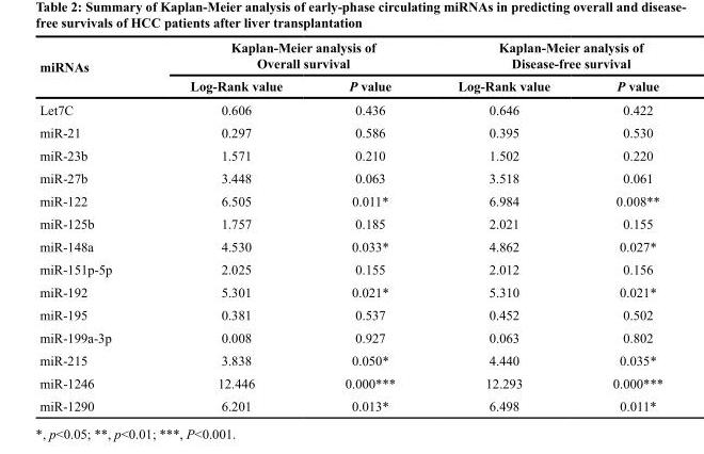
<table><thead><tr><td rowspan="2">miRNAs</td><td colspan="2">Kaplan-Meier analysis of Overall survival</td><td colspan="2">Kaplan-Meier analysis of Disease-free survival</td></tr><tr><td>Log-Rank value</td><td>P value</td><td>Log-Rank value</td><td>P value</td></tr></thead><tbody><tr><td>Let7C</td><td>0.606</td><td>0.436</td><td>0.646</td><td>0.422</td></tr><tr><td>miR-21</td><td>0.297</td><td>0.586</td><td>0.395</td><td>0.530</td></tr><tr><td>miR-23b</td><td>1.571</td><td>0.210</td><td>1.502</td><td>0.220</td></tr><tr><td>miR-27b</td><td>3.448</td><td>0.063</td><td>3.518</td><td>0.061</td></tr><tr><td>miR-122</td><td>6.505</td><td>0.011*</td><td>6.984</td><td>0.008**</td></tr><tr><td>miR-125b</td><td>1.757</td><td>0.185</td><td>2.021</td><td>0.155</td></tr><tr><td>miR-148a</td><td>4.530</td><td>0.033*</td><td>4.862</td><td>0.027*</td></tr><tr><td>miR-151p-5p</td><td>2.025</td><td>0.155</td><td>2.012</td><td>0.156</td></tr><tr><td>miR-192</td><td>5.301</td><td>0.021*</td><td>5.310</td><td>0.021*</td></tr><tr><td>miR-195</td><td>0.381</td><td>0.537</td><td>0.452</td><td>0.502</td></tr><tr><td>miR-199a-3p</td><td>0.008</td><td>0.927</td><td>0.063</td><td>0.802</td></tr><tr><td>miR-215</td><td>3.838</td><td>0.050*</td><td>4.440</td><td>0.035*</td></tr><tr><td>miR-1246</td><td>12.446</td><td>0.000***</td><td>12.293</td><td>0.000***</td></tr><tr><td>miR-1290</td><td>6.201</td><td>0.013*</td><td>6.498</td><td>0.011*</td></tr></tbody></table>